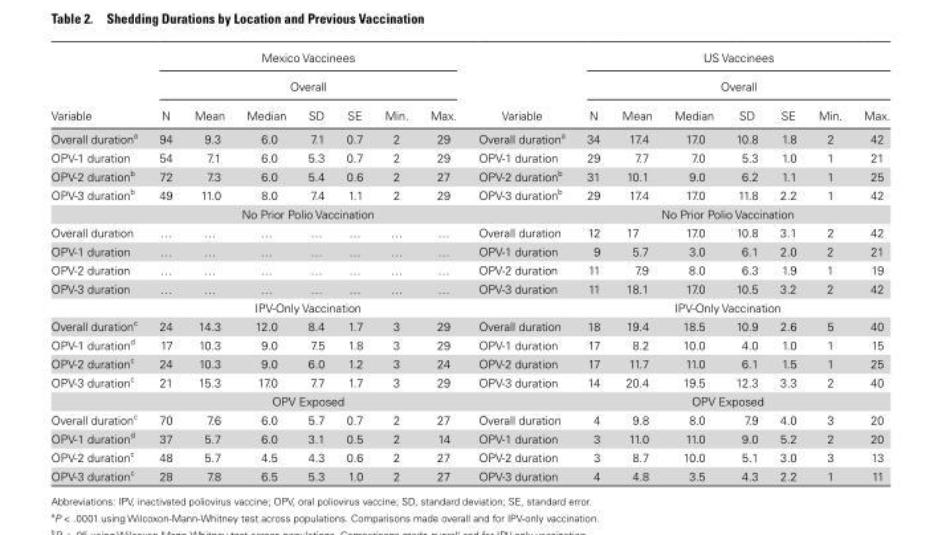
<table><thead><tr><td rowspan="3">Variable</td><td rowspan="2" colspan="7">Mexico Vaccinees Overall</td><td rowspan="3">Variable</td><td rowspan="2" colspan="7">US Vaccinees Overall</td></tr><tr></tr><tr><td>N</td><td>Mean</td><td>Median</td><td>SD</td><td>SE</td><td>Min.</td><td>Max.</td><td>N</td><td>Mean</td><td>Median</td><td>SD</td><td>SE</td><td>Min.</td><td>Max.</td></tr></thead><tbody><tr><td>Overall duration<sup>a</sup></td><td>94</td><td>9.3</td><td>6.0</td><td>7.1</td><td>0.7</td><td>2</td><td>29</td><td>Overall duration<sup>a</sup></td><td>34</td><td>17.4</td><td>17.0</td><td>10.8</td><td>1.8</td><td>2</td><td>42</td></tr><tr><td>OPV-1 duration</td><td>54</td><td>7.1</td><td>6.0</td><td>5.3</td><td>0.7</td><td>2</td><td>29</td><td>OPV-1 duration</td><td>29</td><td>7.7</td><td>7.0</td><td>5.3</td><td>1.0</td><td>1</td><td>21</td></tr><tr><td>OPV-2 duration<sup>b</sup></td><td>72</td><td>7.3</td><td>6.0</td><td>5.4</td><td>0.6</td><td>2</td><td>27</td><td>OPV-2 duration<sup>b</sup></td><td>31</td><td>10.1</td><td>9.0</td><td>6.2</td><td>1.1</td><td>1</td><td>25</td></tr><tr><td rowspan="2">OPV-3 duration<sup>b</sup></td><td>49</td><td>11.0</td><td>8.0</td><td>7.4</td><td>1.1</td><td>2</td><td>29</td><td>OPV-3 duration<sup>b</sup></td><td>29</td><td>17.4</td><td>17.0</td><td>11.8</td><td>2.2</td><td>1</td><td>42</td></tr><tr><td colspan="7">No Prior Polio Vaccination</td><td></td><td colspan="7">No Prior Polio Vaccination</td></tr><tr><td>Overall duration</td><td>…</td><td>…</td><td>…</td><td>…</td><td>…</td><td>…</td><td>…</td><td>Overall duration</td><td>12</td><td>17</td><td>17.0</td><td>10.8</td><td>3.1</td><td>2</td><td>42</td></tr><tr><td>OPV-1 duration</td><td>…</td><td>…</td><td>…</td><td>…</td><td>…</td><td>…</td><td>…</td><td>OPV-1 duration</td><td>9</td><td>5.7</td><td>3.0</td><td>6.1</td><td>2.0</td><td>2</td><td>21</td></tr><tr><td>OPV-2 duration</td><td>…</td><td>…</td><td>…</td><td>…</td><td>…</td><td>…</td><td>…</td><td>OPV-2 duration</td><td>11</td><td>7.9</td><td>8.0</td><td>6.3</td><td>1.9</td><td>1</td><td>19</td></tr><tr><td rowspan="2">OPV-3 duration</td><td>…</td><td>…</td><td>…</td><td>…</td><td>…</td><td>…</td><td>…</td><td>OPV-3 duration</td><td>11</td><td>18.1</td><td>17.0</td><td>10.5</td><td>3.2</td><td>2</td><td>42</td></tr><tr><td colspan="7">IPV-Only Vaccination</td><td></td><td colspan="7">IPV-Only Vaccination</td></tr><tr><td>Overall duration<sup>c</sup></td><td>24</td><td>14.3</td><td>12.0</td><td>8.4</td><td>1.7</td><td>3</td><td>29</td><td>Overall duration</td><td>18</td><td>19.4</td><td>18.5</td><td>10.9</td><td>2.6</td><td>5</td><td>40</td></tr><tr><td>OPV-1 duration<sup>d</sup></td><td>17</td><td>10.3</td><td>9.0</td><td>7.5</td><td>1.8</td><td>3</td><td>29</td><td>OPV-1 duration</td><td>17</td><td>8.2</td><td>10.0</td><td>4.0</td><td>1.0</td><td>1</td><td>15</td></tr><tr><td>OPV-2 duration<sup>c</sup></td><td>24</td><td>10.3</td><td>9.0</td><td>6.0</td><td>1.2</td><td>3</td><td>24</td><td>OPV-2 duration</td><td>17</td><td>11.7</td><td>11.0</td><td>6.1</td><td>1.5</td><td>1</td><td>25</td></tr><tr><td rowspan="2">OPV-3 duration<sup>c</sup></td><td>21</td><td>15.3</td><td>17.0</td><td>7.7</td><td>1.7</td><td>3</td><td>29</td><td>OPV-3 duration</td><td>14</td><td>20.4</td><td>19.5</td><td>12.3</td><td>3.3</td><td>2</td><td>40</td></tr><tr><td colspan="7">OPV Exposed</td><td></td><td colspan="7">OPV Exposed</td></tr><tr><td>Overall duration<sup>c</sup></td><td>70</td><td>7.6</td><td>6.0</td><td>5.7</td><td>0.7</td><td>2</td><td>27</td><td>Overall duration</td><td>4</td><td>9.8</td><td>8.0</td><td>7.9</td><td>4.0</td><td>3</td><td>20</td></tr><tr><td>OPV-1 duration<sup>d</sup></td><td>37</td><td>5.7</td><td>6.0</td><td>3.1</td><td>0.5</td><td>2</td><td>14</td><td>OPV-1 duration</td><td>3</td><td>11.0</td><td>11.0</td><td>9.0</td><td>5.2</td><td>2</td><td>20</td></tr><tr><td>OPV-2 duration<sup>c</sup></td><td>48</td><td>5.7</td><td>4.5</td><td>4.3</td><td>0.6</td><td>2</td><td>27</td><td>OPV-2 duration</td><td>3</td><td>8.7</td><td>10.0</td><td>5.1</td><td>3.0</td><td>3</td><td>13</td></tr><tr><td>OPV-3 duration<sup>c</sup></td><td>28</td><td>7.8</td><td>6.5</td><td>5.3</td><td>1.0</td><td>2</td><td>27</td><td>OPV-3 duration</td><td>4</td><td>4.8</td><td>3.5</td><td>4.3</td><td>2.2</td><td>1</td><td>11</td></tr></tbody></table>